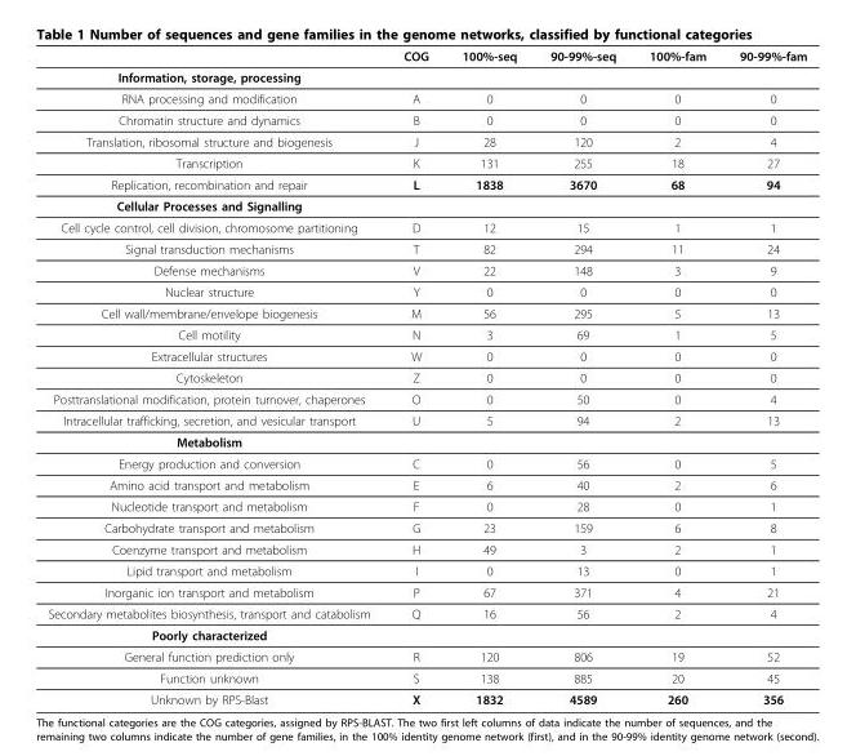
<table><thead><tr><td></td><td>COG</td><td>100%-seq</td><td>90-99%-seq</td><td>100%-fam</td><td>90-99%-fam</td></tr></thead><tbody><tr><td colspan="6">Information, storage, processing</td></tr><tr><td>RNA processing and modification</td><td>A</td><td>0</td><td>0</td><td>0</td><td>0</td></tr><tr><td>Chromatin structure and dynamics</td><td>B</td><td>0</td><td>0</td><td>0</td><td>0</td></tr><tr><td>Translation, ribosomal structure and biogenesis</td><td>J</td><td>28</td><td>120</td><td>2</td><td>4</td></tr><tr><td>Transcription</td><td>K</td><td>131</td><td>255</td><td>18</td><td>27</td></tr><tr><td>Replication, recombination and repair</td><td>L</td><td>1838</td><td>3670</td><td>68</td><td>94</td></tr><tr><td colspan="6">Cellular Processes and Signalling</td></tr><tr><td>Cell cycle control, cell division, chromosome partitioning</td><td>D</td><td>12</td><td>15</td><td>1</td><td>1</td></tr><tr><td>Signal transduction mechanisms</td><td>T</td><td>82</td><td>294</td><td>11</td><td>24</td></tr><tr><td>Defense mechanisms</td><td>V</td><td>22</td><td>148</td><td>3</td><td>9</td></tr><tr><td>Nuclear structure</td><td>Y</td><td>0</td><td>0</td><td>0</td><td>0</td></tr><tr><td>Cell wall/membrane/envelope biogenesis</td><td>M</td><td>56</td><td>295</td><td>5</td><td>13</td></tr><tr><td>Cell motility</td><td>N</td><td>3</td><td>69</td><td>1</td><td>5</td></tr><tr><td>Extracellular structures</td><td>W</td><td>0</td><td>0</td><td>0</td><td>0</td></tr><tr><td>Cytoskeleton</td><td>Z</td><td>0</td><td>0</td><td>0</td><td>0</td></tr><tr><td>Posttranslational modification, protein turnover, chaperones</td><td>O</td><td>0</td><td>50</td><td>0</td><td>4</td></tr><tr><td>Intracellular trafficking, secretion, and vesicular transport</td><td>U</td><td>5</td><td>94</td><td>2</td><td>13</td></tr><tr><td colspan="6">Metabolism</td></tr><tr><td>Energy production and conversion</td><td>C</td><td>0</td><td>56</td><td>0</td><td>5</td></tr><tr><td>Amino acid transport and metabolism</td><td>E</td><td>6</td><td>40</td><td>2</td><td>6</td></tr><tr><td>Nucleotide transport and metabolism</td><td>F</td><td>0</td><td>28</td><td>0</td><td>1</td></tr><tr><td>Carbohydrate transport and metabolism</td><td>G</td><td>23</td><td>159</td><td>6</td><td>8</td></tr><tr><td>Coenzyme transport and metabolism</td><td>H</td><td>49</td><td>3</td><td>2</td><td>1</td></tr><tr><td>Lipid transport and metabolism</td><td>I</td><td>0</td><td>13</td><td>0</td><td>1</td></tr><tr><td>Inorganic ion transport and metabolism</td><td>P</td><td>67</td><td>371</td><td>4</td><td>21</td></tr><tr><td>Secondary metabolites biosynthesis, transport and catabolism</td><td>Q</td><td>16</td><td>56</td><td>2</td><td>4</td></tr><tr><td colspan="6">Poorly characterized</td></tr><tr><td>General function prediction only</td><td>R</td><td>120</td><td>806</td><td>19</td><td>52</td></tr><tr><td>Function unknown</td><td>S</td><td>138</td><td>885</td><td>20</td><td>45</td></tr><tr><td>Unknown by RPS-Blast</td><td>X</td><td>1832</td><td>4589</td><td>260</td><td>356</td></tr></tbody></table>